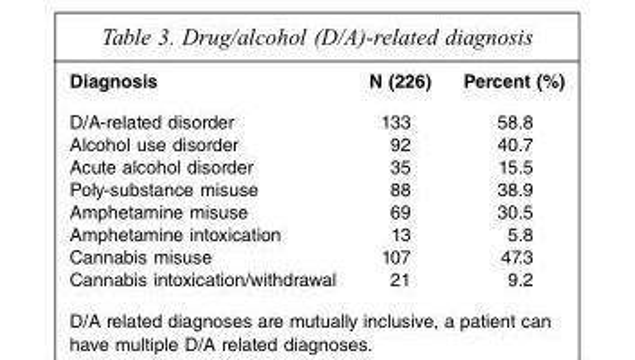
<table><thead><tr><td>Diagnosis</td><td>N (226)</td><td>Percent (%)</td></tr></thead><tbody><tr><td>D/A-related disorder</td><td>133</td><td>58.8</td></tr><tr><td>Alcohol use disorder</td><td>92</td><td>40.7</td></tr><tr><td>Acute alcohol disorder</td><td>35</td><td>15.5</td></tr><tr><td>Poly-substance misuse</td><td>88</td><td>38.9</td></tr><tr><td>Amphetamine misuse</td><td>69</td><td>30.5</td></tr><tr><td>Amphetamine intoxication</td><td>13</td><td>5.8</td></tr><tr><td>Cannabis misuse</td><td>107</td><td>47.3</td></tr><tr><td>Cannabis intoxication/withdrawal</td><td>21</td><td>9.2</td></tr></tbody></table>